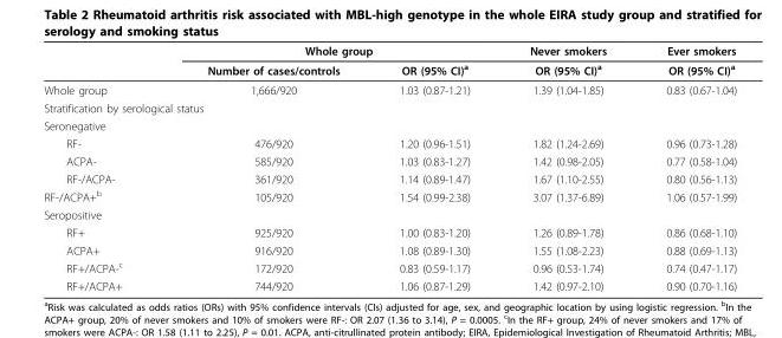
<table><thead><tr><td rowspan="2"></td><td colspan="2">Whole group</td><td rowspan="2">Never smokers OR (95% CI)<sup>a</sup></td><td rowspan="2">Ever smokers OR (95% CI)<sup>a</sup></td></tr><tr><td>Number of cases/controls</td><td>OR (95% CI)<sup>a</sup></td></tr></thead><tbody><tr><td>Whole group</td><td>1,666/920</td><td>1.03 (0.87-1.21)</td><td>1.39 (1.04-1.85)</td><td>0.83 (0.67-1.04)</td></tr><tr><td colspan="5">Stratification by serological status</td></tr><tr><td colspan="5">Seronegative</td></tr><tr><td>RF-</td><td>476/920</td><td>1.20 (0.96-1.51)</td><td>1.82 (1.24-2.69)</td><td>0.96 (0.73-1.28)</td></tr><tr><td>ACPA-</td><td>585/920</td><td>1.03 (0.83-1.27)</td><td>1.42 (0.98-2.05)</td><td>0.77 (0.58-1.04)</td></tr><tr><td>RF-/ACPA-</td><td>361/920</td><td>1.14 (0.89-1.47)</td><td>1.67 (1.10-2.55)</td><td>0.80 (0.56-1.13)</td></tr><tr><td>RF-/ACPA+<sup>b</sup></td><td>105/920</td><td>1.54 (0.99-2.38)</td><td>3.07 (1.37-6.89)</td><td>1.06 (0.57-1.99)</td></tr><tr><td colspan="5">Seropositive</td></tr><tr><td>RF+</td><td>925/920</td><td>1.00 (0.83-1.20)</td><td>1.26 (0.89-1.78)</td><td>0.86 (0.68-1.10)</td></tr><tr><td>ACPA+</td><td>916/920</td><td>1.08 (0.89-1.30)</td><td>1.55 (1.08-2.23)</td><td>0.88 (0.69-1.13)</td></tr><tr><td>RF+/ACPA-<sup>c</sup></td><td>172/920</td><td>0.83 (0.59-1.17)</td><td>0.96 (0.53-1.74)</td><td>0.74 (0.47-1.17)</td></tr><tr><td>RF+/ACPA+</td><td>744/920</td><td>1.06 (0.87-1.29)</td><td>1.42 (0.97-2.10)</td><td>0.90 (0.70-1.16)</td></tr></tbody></table>